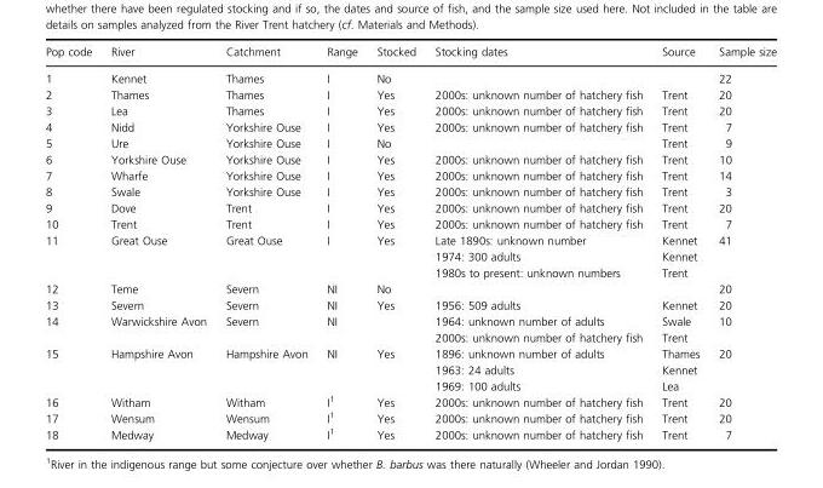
<table><thead><tr><td>Pop code</td><td>River</td><td>Catchment</td><td>Range</td><td>Stocked</td><td>Stocking dates</td><td>Source</td><td>Sample size</td></tr></thead><tbody><tr><td>1</td><td>Kennet</td><td>Thames</td><td>I</td><td>No</td><td></td><td></td><td>22</td></tr><tr><td>2</td><td>Thames</td><td>Thames</td><td>I</td><td>Yes</td><td>2000s: unknown number of hatchery fish</td><td>Trent</td><td>20</td></tr><tr><td>3</td><td>Lea</td><td>Thames</td><td>I</td><td>Yes</td><td>2000s: unknown number of hatchery fish</td><td>Trent</td><td>20</td></tr><tr><td>4</td><td>Nidd</td><td>Yorkshire Ouse</td><td>I</td><td>Yes</td><td>2000s: unknown number of hatchery fish</td><td>Trent</td><td>7</td></tr><tr><td>5</td><td>Ure</td><td>Yorkshire Ouse</td><td>I</td><td>No</td><td></td><td>Trent</td><td>9</td></tr><tr><td>6</td><td>Yorkshire Ouse</td><td>Yorkshire Ouse</td><td>I</td><td>Yes</td><td>2000s: unknown number of hatchery fish</td><td>Trent</td><td>10</td></tr><tr><td>7</td><td>Wharfe</td><td>Yorkshire Ouse</td><td>I</td><td>Yes</td><td>2000s: unknown number of hatchery fish</td><td>Trent</td><td>14</td></tr><tr><td>8</td><td>Swale</td><td>Yorkshire Ouse</td><td>I</td><td>Yes</td><td>2000s: unknown number of hatchery fish</td><td>Trent</td><td>3</td></tr><tr><td>9</td><td>Dove</td><td>Trent</td><td>I</td><td>Yes</td><td>2000s: unknown number of hatchery fish</td><td>Trent</td><td>20</td></tr><tr><td>10</td><td>Trent</td><td>Trent</td><td>I</td><td>Yes</td><td>2000s: unknown number of hatchery fish</td><td>Trent</td><td>7</td></tr><tr><td rowspan="3">11</td><td rowspan="3">Great Ouse</td><td rowspan="3">Great Ouse</td><td rowspan="3">I</td><td rowspan="3">Yes</td><td>Late 1890s: unknown number</td><td>Kennet</td><td rowspan="3">41</td></tr><tr><td>1974: 300 adults</td><td>Kennet</td></tr><tr><td>1980s to present: unknown numbers</td><td>Trent</td></tr><tr><td>12</td><td>Teme</td><td>Severn</td><td>NI</td><td>No</td><td></td><td></td><td>20</td></tr><tr><td>13</td><td>Severn</td><td>Severn</td><td>NI</td><td>Yes</td><td>1956: 509 adults</td><td>Kennet</td><td>20</td></tr><tr><td rowspan="2">14</td><td rowspan="2">Warwickshire Avon</td><td rowspan="2">Severn</td><td rowspan="2">NI</td><td rowspan="2"></td><td>1964: unknown number of adults</td><td>Swale</td><td rowspan="2">10</td></tr><tr><td>2000s: unknown number of hatchery fish</td><td>Trent</td></tr><tr><td rowspan="3">15</td><td rowspan="3">Hampshire Avon</td><td rowspan="3">Hampshire Avon</td><td rowspan="3">NI</td><td rowspan="3">Yes</td><td>1896: unknown number of adults</td><td>Thames</td><td rowspan="3">20</td></tr><tr><td>1963: 24 adults</td><td>Kennet</td></tr><tr><td>1969: 100 adults</td><td>Lea</td></tr><tr><td>16</td><td>Witham</td><td>Witham</td><td>I1</td><td>Yes</td><td>2000s: unknown number of hatchery fish</td><td>Trent</td><td>20</td></tr><tr><td>17</td><td>Wensum</td><td>Wensum</td><td>I1</td><td>Yes</td><td>2000s: unknown number of hatchery fish</td><td>Trent</td><td>20</td></tr><tr><td>18</td><td>Medway</td><td>Medway</td><td>I1</td><td>Yes</td><td>2000s: unknown number of hatchery fish</td><td>Trent</td><td>7</td></tr></tbody></table>